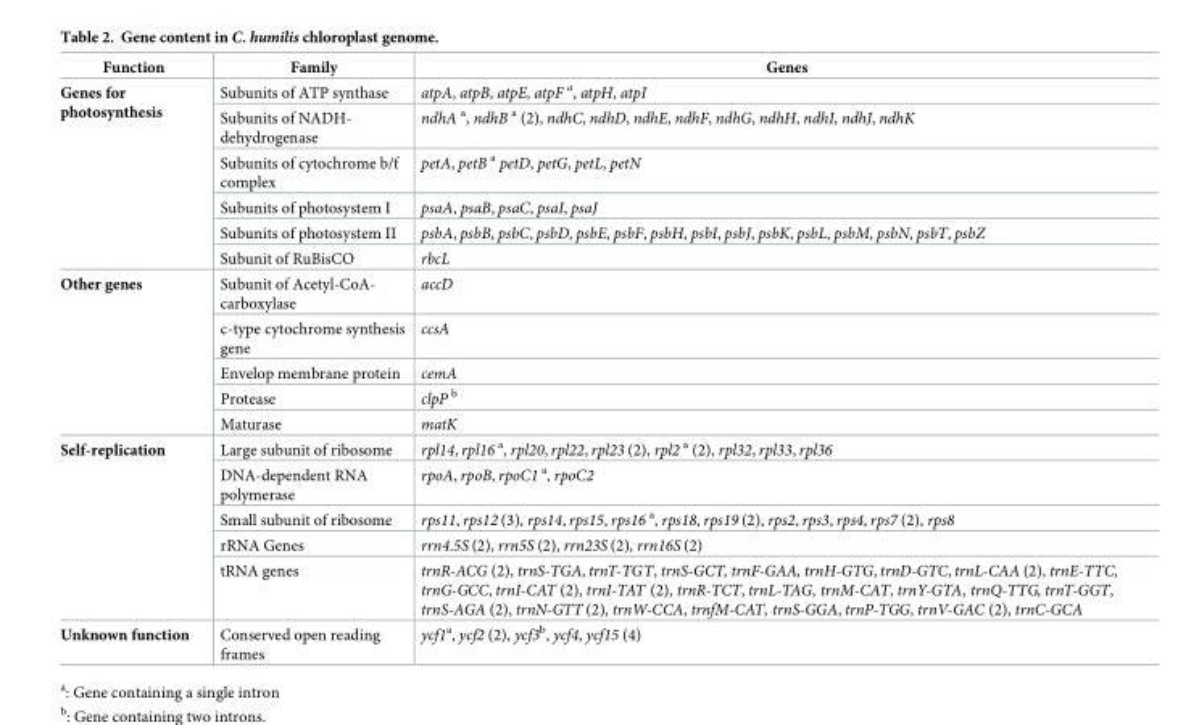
<table><thead><tr><td>Function</td><td>Family</td><td>Genes</td></tr></thead><tbody><tr><td rowspan="6">Genes for photosynthesis</td><td>Subunits of ATP synthase</td><td>atpA, atpB, atpE, atpF <sup>a</sup>, atpH, atpI</td></tr><tr><td>Subunits of NADH- dehydrogenase</td><td>ndhA <sup>a</sup>, ndhB <sup>a</sup> (2), ndhC, ndhD, ndhE, ndhF, ndhG, ndhH, ndhI, ndhJ, ndhK</td></tr><tr><td>Subunits of cytochrome b/f complex</td><td>petA, petB <sup>a</sup> petD, petG, petL, petN</td></tr><tr><td>Subunits of photosystem I</td><td>psaA, psaB, psaC, psaI, psaJ</td></tr><tr><td>Subunits of photosystem II</td><td>psbA, psbB, psbC, psbD, psbE, psbF, psbH, psbI, psbJ, psbK, psbL, psbM, psbN, psbT, psbZ</td></tr><tr><td>Subunit of RuBisCO</td><td>rbcL</td></tr><tr><td rowspan="5">Other genes</td><td>Subunit of Acetyl-CoA- carboxylase</td><td>accD</td></tr><tr><td>c-type cytochrome synthesis gene</td><td>ccsA</td></tr><tr><td>Envelop membrane protein</td><td>cemA</td></tr><tr><td>Protease</td><td>clpP <sup>b</sup></td></tr><tr><td>Maturase</td><td>matK</td></tr><tr><td rowspan="5">Self-replication</td><td>Large subunit of ribosome</td><td>rpl14, rpl16 <sup>a</sup>, rpl20, rpl22, rpl23 (2), rpl2 <sup>a</sup> (2), rpl32, rpl33, rpl36</td></tr><tr><td>DNA-dependent RNA polymerase</td><td>rpoA, rpoB, rpoC1 <sup>a</sup>, rpoC2</td></tr><tr><td>Small subunit of ribosome</td><td>rps11, rps12 (3), rps14, rps15, rps16 <sup>a</sup>, rps18, rps19 (2), rps2, rps3, rps4, rps7 (2), rps8</td></tr><tr><td>rRNA Genes</td><td>rrn4.5S (2), rrn5S (2), rrn23S (2), rrn16S (2)</td></tr><tr><td>tRNA genes</td><td>trnR-ACG (2), trnS-TGA, trnT-TGT, trnS-GCT, trnF-GAA, trnH-GTG, trnD-GTC, trnL-CAA (2), trnE-TTC, trnG-GCC, trnI-CAT (2), trnI-TAT (2), trnR-TCT, trnL-TAG, trnM-CAT, trnY-GTA, trnQ-TTG, trnT-GGT, trnS-AGA (2), trnN-GTT (2), trnW-CCA, trnfM-CAT, trnS-GGA, trnP-TGG, trnV-GAC (2), trnC-GCA</td></tr><tr><td>Unknown function</td><td>Conserved open reading frames</td><td>ycf1<sup>a</sup>, ycf2 (2), ycf3<sup>b</sup>, ycf4, ycf15 (4)</td></tr></tbody></table>